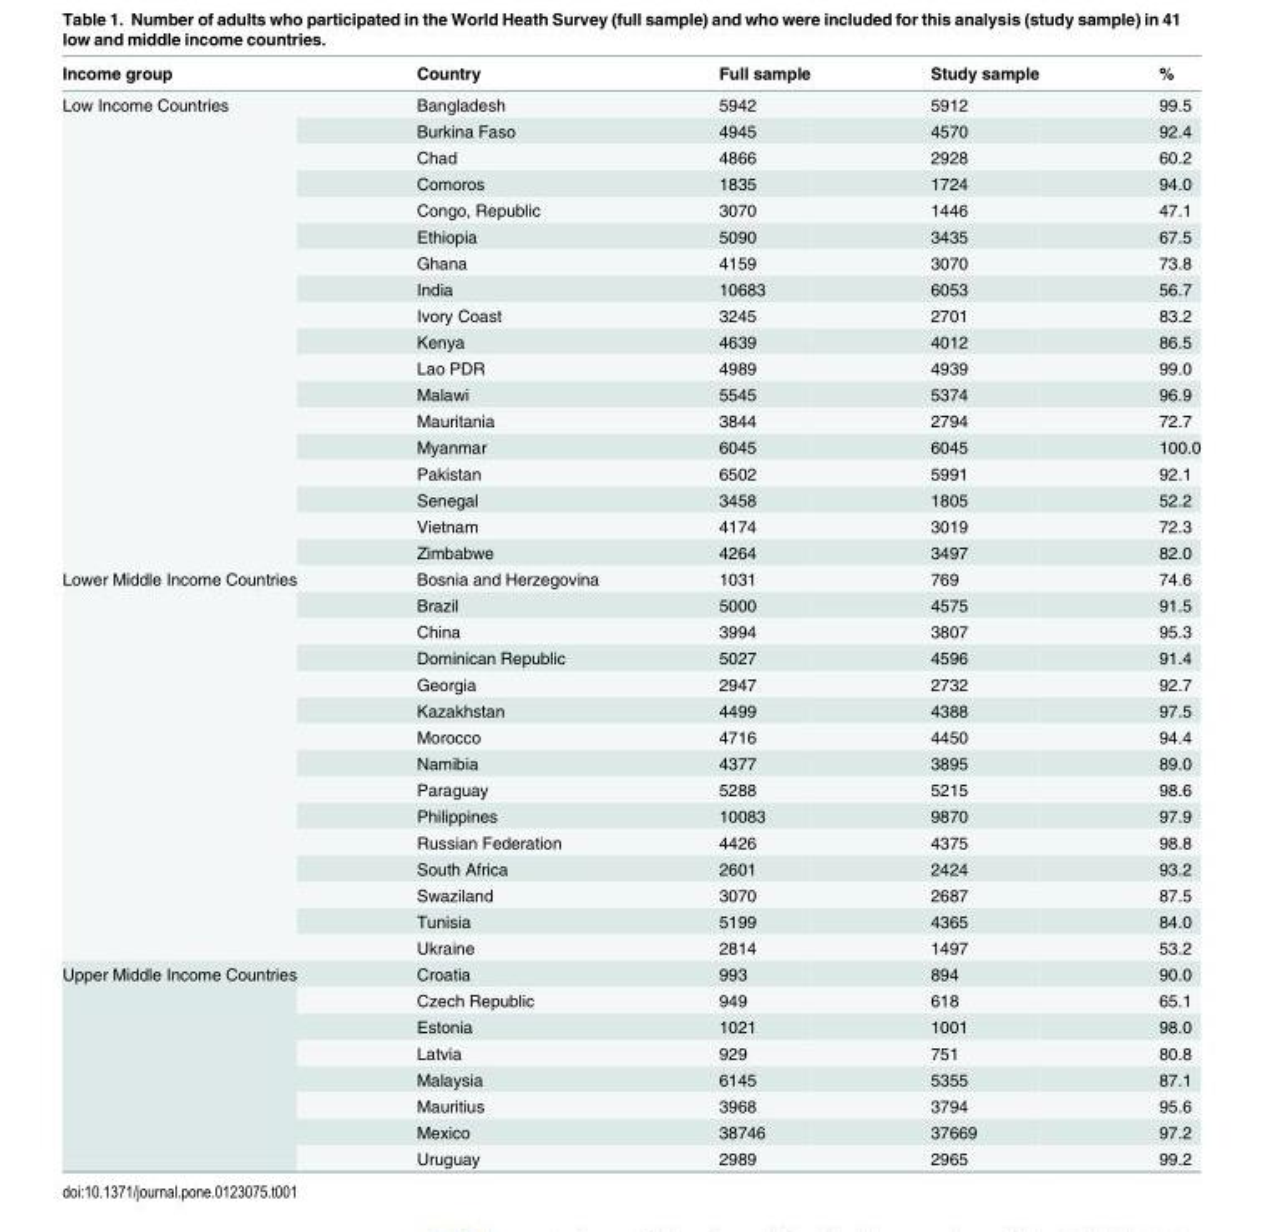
<table><thead><tr><td>Income group</td><td>Country</td><td>Full sample</td><td>Study sample</td><td>%</td></tr></thead><tbody><tr><td rowspan="18">Low Income Countries</td><td>Bangladesh</td><td>5942</td><td>5912</td><td>99.5</td></tr><tr><td>Burkina Faso</td><td>4945</td><td>4570</td><td>92.4</td></tr><tr><td>Chad</td><td>4866</td><td>2928</td><td>60.2</td></tr><tr><td>Comoros</td><td>1835</td><td>1724</td><td>94.0</td></tr><tr><td>Congo, Republic</td><td>3070</td><td>1446</td><td>47.1</td></tr><tr><td>Ethiopia</td><td>5090</td><td>3435</td><td>67.5</td></tr><tr><td>Ghana</td><td>4159</td><td>3070</td><td>73.8</td></tr><tr><td>India</td><td>10683</td><td>6053</td><td>56.7</td></tr><tr><td>Ivory Coast</td><td>3245</td><td>2701</td><td>83.2</td></tr><tr><td>Kenya</td><td>4639</td><td>4012</td><td>86.5</td></tr><tr><td>Lao PDR</td><td>4989</td><td>4939</td><td>99.0</td></tr><tr><td>Malawi</td><td>5545</td><td>5374</td><td>96.9</td></tr><tr><td>Mauritania</td><td>3844</td><td>2794</td><td>72.7</td></tr><tr><td>Myanmar</td><td>6045</td><td>6045</td><td>100.0</td></tr><tr><td>Pakistan</td><td>6502</td><td>5991</td><td>92.1</td></tr><tr><td>Senegal</td><td>3458</td><td>1805</td><td>52.2</td></tr><tr><td>Vietnam</td><td>4174</td><td>3019</td><td>72.3</td></tr><tr><td>Zimbabwe</td><td>4264</td><td>3497</td><td>82.0</td></tr><tr><td rowspan="15">Lower Middle Income Countries</td><td>Bosnia and Herzegovina</td><td>1031</td><td>769</td><td>74.6</td></tr><tr><td>Brazil</td><td>5000</td><td>4575</td><td>91.5</td></tr><tr><td>China</td><td>3994</td><td>3807</td><td>95.3</td></tr><tr><td>Dominican Republic</td><td>5027</td><td>4596</td><td>91.4</td></tr><tr><td>Georgia</td><td>2947</td><td>2732</td><td>92.7</td></tr><tr><td>Kazakhstan</td><td>4499</td><td>4388</td><td>97.5</td></tr><tr><td>Morocco</td><td>4716</td><td>4450</td><td>94.4</td></tr><tr><td>Namibia</td><td>4377</td><td>3895</td><td>89.0</td></tr><tr><td>Paraguay</td><td>5288</td><td>5215</td><td>98.6</td></tr><tr><td>Philippines</td><td>10083</td><td>9870</td><td>97.9</td></tr><tr><td>Russian Federation</td><td>4426</td><td>4375</td><td>98.8</td></tr><tr><td>South Africa</td><td>2601</td><td>2424</td><td>93.2</td></tr><tr><td>Swaziland</td><td>3070</td><td>2687</td><td>87.5</td></tr><tr><td>Tunisia</td><td>5199</td><td>4365</td><td>84.0</td></tr><tr><td>Ukraine</td><td>2814</td><td>1497</td><td>53.2</td></tr><tr><td rowspan="8">Upper Middle Income Countries</td><td>Croatia</td><td>993</td><td>894</td><td>90.0</td></tr><tr><td>Czech Republic</td><td>949</td><td>618</td><td>65.1</td></tr><tr><td>Estonia</td><td>1021</td><td>1001</td><td>98.0</td></tr><tr><td>Latvia</td><td>929</td><td>751</td><td>80.8</td></tr><tr><td>Malaysia</td><td>6145</td><td>5355</td><td>87.1</td></tr><tr><td>Mauritius</td><td>3968</td><td>3794</td><td>95.6</td></tr><tr><td>Mexico</td><td>38746</td><td>37669</td><td>97.2</td></tr><tr><td>Uruguay</td><td>2989</td><td>2965</td><td>99.2</td></tr></tbody></table>